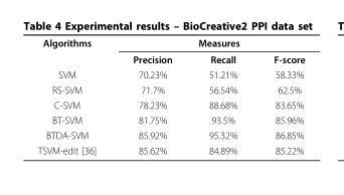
<table><tbody><tr><td rowspan="2">Algorithms</td><td colspan="3">Measures</td></tr><tr><td>Precision</td><td>Recall</td><td>F-score</td></tr><tr><td>SVM</td><td>70.23%</td><td>51.21%</td><td>58.33%</td></tr><tr><td>RS-SVM</td><td>71.7%</td><td>56.54%</td><td>62.5%</td></tr><tr><td>C-SVM</td><td>78.23%</td><td>88.68%</td><td>83.65%</td></tr><tr><td>BT-SVM</td><td>81.75%</td><td>93.5%</td><td>85.96%</td></tr><tr><td>BTDA-SVM</td><td>85.92%</td><td>95.32%</td><td>86.85%</td></tr><tr><td>TSVM-edit [36]</td><td>85.62%</td><td>84.89%</td><td>85.22%</td></tr></tbody></table>